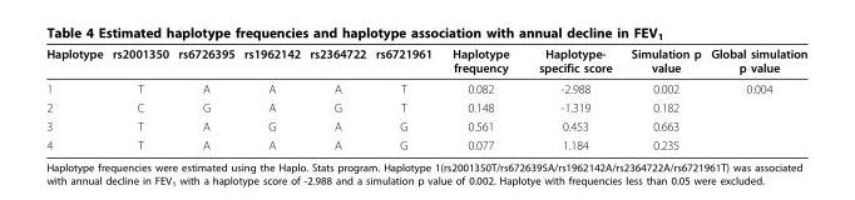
<table><thead><tr><td>Haplotype</td><td>rs2001350</td><td>rs6726395</td><td>rs1962142</td><td>rs2364722</td><td>rs6721961</td><td>Haplotype frequency</td><td>Haplotype- specific score</td><td>Simulation p value</td><td>Global simulation p value</td></tr></thead><tbody><tr><td>1</td><td>T</td><td>A</td><td>A</td><td>A</td><td>T</td><td>0.082</td><td>-2.988</td><td>0.002</td><td>0.004</td></tr><tr><td>2</td><td>C</td><td>G</td><td>A</td><td>G</td><td>T</td><td>0.148</td><td>-1.319</td><td>0.182</td><td></td></tr><tr><td>3</td><td>T</td><td>A</td><td>G</td><td>A</td><td>G</td><td>0.561</td><td>0.453</td><td>0.663</td><td></td></tr><tr><td>4</td><td>T</td><td>A</td><td>A</td><td>A</td><td>G</td><td>0.077</td><td>1.184</td><td>0.235</td><td></td></tr></tbody></table>